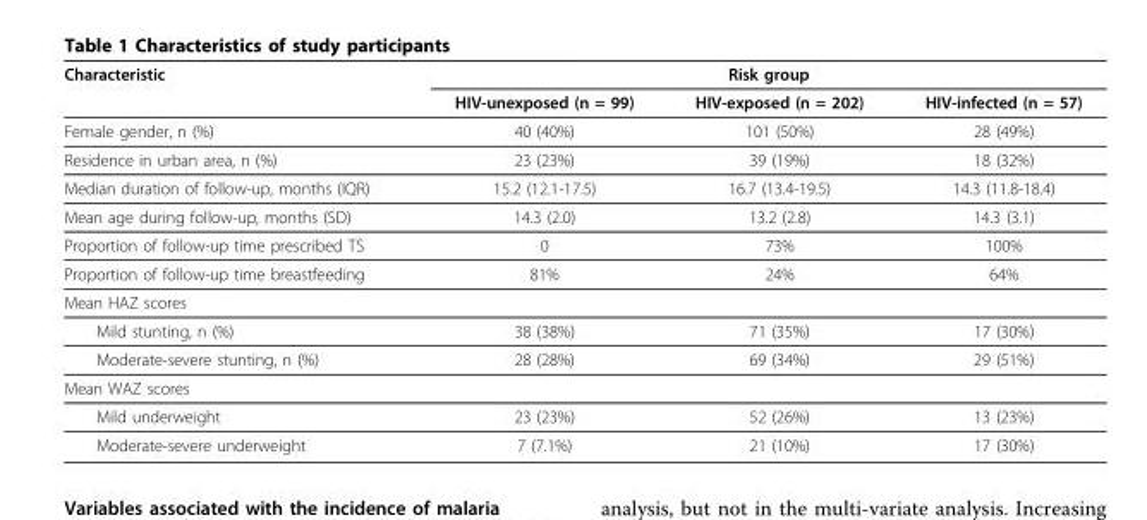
<table><thead><tr><td rowspan="2">Characteristic</td><td colspan="3">Risk group</td></tr><tr><td>HIV-unexposed (n = 99)</td><td>HIV-exposed (n = 202)</td><td>HIV-infected (n = 57)</td></tr></thead><tbody><tr><td>Female gender, n (%)</td><td>40 (40%)</td><td>101 (50%)</td><td>28 (49%)</td></tr><tr><td>Residence in urban area, n (%)</td><td>23 (23%)</td><td>39 (19%)</td><td>18 (32%)</td></tr><tr><td>Median duration of follow-up, months (IQR)</td><td>15.2 (12.1-17.5)</td><td>16.7 (13.4-19.5)</td><td>14.3 (11.8-18.4)</td></tr><tr><td>Mean age during follow-up, months (SD)</td><td>14.3 (2.0)</td><td>13.2 (2.8)</td><td>14.3 (3.1)</td></tr><tr><td>Proportion of follow-up time prescribed TS</td><td>0</td><td>73%</td><td>100%</td></tr><tr><td>Proportion of follow-up time breastfeeding</td><td>81%</td><td>24%</td><td>64%</td></tr><tr><td colspan="4">Mean HAZ scores</td></tr><tr><td>Mild stunting, n (%)</td><td>38 (38%)</td><td>71 (35%)</td><td>17 (30%)</td></tr><tr><td>Moderate-severe stunting, n (%)</td><td>28 (28%)</td><td>69 (34%)</td><td>29 (51%)</td></tr><tr><td colspan="4">Mean WAZ scores</td></tr><tr><td>Mild underweight</td><td>23 (23%)</td><td>52 (26%)</td><td>13 (23%)</td></tr><tr><td>Moderate-severe underweight</td><td>7 (7.1%)</td><td>21 (10%)</td><td>17 (30%)</td></tr></tbody></table>